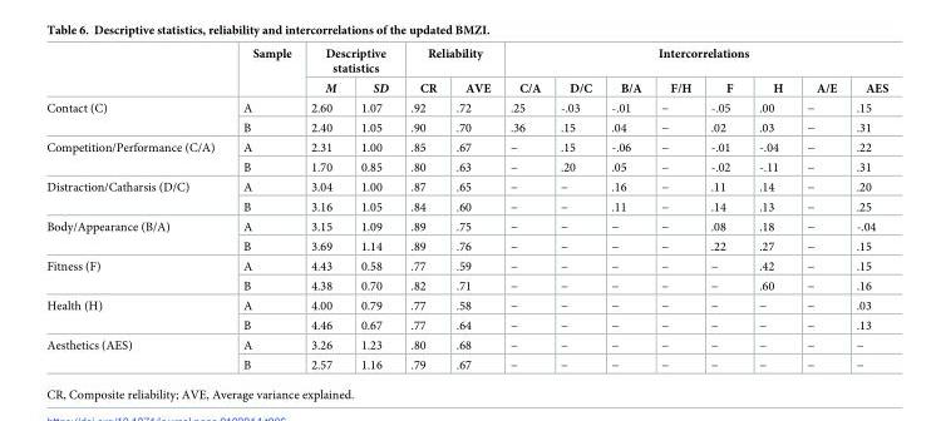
<table><thead><tr><td rowspan="2"></td><td rowspan="2">Sample</td><td colspan="2">Descriptive statistics</td><td colspan="2">Reliability</td><td colspan="8">Intercorrelations</td></tr><tr><td>M</td><td>SD</td><td>CR</td><td>AVE</td><td>C/A</td><td>D/C</td><td>B/A</td><td>F/H</td><td>F</td><td>H</td><td>A/E</td><td>AES</td></tr></thead><tbody><tr><td rowspan="2">Contact (C)</td><td>A</td><td>2.60</td><td>1.07</td><td>.92</td><td>.72</td><td>.25</td><td>-.03</td><td>-.01</td><td>−</td><td>-.05</td><td>.00</td><td>−</td><td>.15</td></tr><tr><td>B</td><td>2.40</td><td>1.05</td><td>.90</td><td>.70</td><td>.36</td><td>.15</td><td>.04</td><td>−</td><td>.02</td><td>.03</td><td>−</td><td>.31</td></tr><tr><td rowspan="2">Competition/Performance (C/A)</td><td>A</td><td>2.31</td><td>1.00</td><td>.85</td><td>.67</td><td>−</td><td>.15</td><td>-.06</td><td>−</td><td>-.01</td><td>-.04</td><td>−</td><td>.22</td></tr><tr><td>B</td><td>1.70</td><td>0.85</td><td>.80</td><td>.63</td><td>−</td><td>.20</td><td>.05</td><td>−</td><td>-.02</td><td>-.11</td><td>−</td><td>.31</td></tr><tr><td rowspan="2">Distraction/Catharsis (D/C)</td><td>A</td><td>3.04</td><td>1.00</td><td>.87</td><td>.65</td><td>−</td><td>−</td><td>.16</td><td>−</td><td>.11</td><td>.14</td><td>−</td><td>.20</td></tr><tr><td>B</td><td>3.16</td><td>1.05</td><td>.84</td><td>.60</td><td>−</td><td>−</td><td>.11</td><td>−</td><td>.14</td><td>.13</td><td>−</td><td>.25</td></tr><tr><td rowspan="2">Body/Appearance (B/A)</td><td>A</td><td>3.15</td><td>1.09</td><td>.89</td><td>.75</td><td>−</td><td>−</td><td>−</td><td>−</td><td>.08</td><td>.18</td><td>−</td><td>-.04</td></tr><tr><td>B</td><td>3.69</td><td>1.14</td><td>.89</td><td>.76</td><td>−</td><td>−</td><td>−</td><td>−</td><td>.22</td><td>.27</td><td>−</td><td>.15</td></tr><tr><td rowspan="2">Fitness (F)</td><td>A</td><td>4.43</td><td>0.58</td><td>.77</td><td>.59</td><td>−</td><td>−</td><td>−</td><td>−</td><td>−</td><td>.42</td><td>−</td><td>.15</td></tr><tr><td>B</td><td>4.38</td><td>0.70</td><td>.82</td><td>.71</td><td>−</td><td>−</td><td>−</td><td>−</td><td>−</td><td>.60</td><td>−</td><td>.16</td></tr><tr><td rowspan="2">Health (H)</td><td>A</td><td>4.00</td><td>0.79</td><td>.77</td><td>.58</td><td>−</td><td>−</td><td>−</td><td>−</td><td>−</td><td>−</td><td>−</td><td>.03</td></tr><tr><td>B</td><td>4.46</td><td>0.67</td><td>.77</td><td>.64</td><td>−</td><td>−</td><td>−</td><td>−</td><td>−</td><td>−</td><td>−</td><td>.13</td></tr><tr><td rowspan="2">Aesthetics (AES)</td><td>A</td><td>3.26</td><td>1.23</td><td>.80</td><td>.68</td><td>−</td><td>−</td><td>−</td><td>−</td><td>−</td><td>−</td><td>−</td><td>−</td></tr><tr><td>B</td><td>2.57</td><td>1.16</td><td>.79</td><td>.67</td><td>−</td><td>−</td><td>−</td><td>−</td><td>−</td><td>−</td><td>−</td><td>−</td></tr></tbody></table>